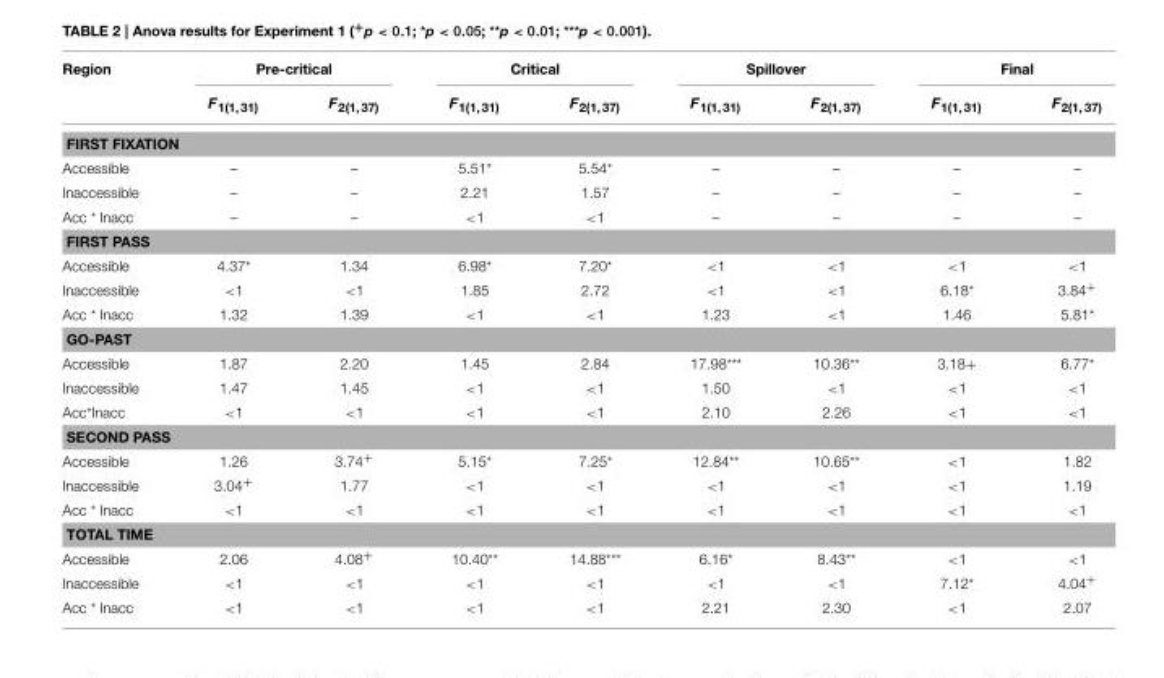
<table><thead><tr><td rowspan="2">Region</td><td colspan="2">Pre-critical</td><td colspan="2">Critical</td><td colspan="2">Spillover</td><td colspan="2">Final</td></tr><tr><td>F1(1, 31)</td><td>F<sub>2(1, 37)</sub></td><td>F1(1, 31)</td><td>F<sub>2(1, 37)</sub></td><td>F1(1, 31)</td><td>F<sub>2(1, 37)</sub></td><td>F1(1, 31)</td><td>F<sub>2(1, 37)</sub></td></tr></thead><tbody><tr><td colspan="9">FIRST FIXATION</td></tr><tr><td>Accessible</td><td>–</td><td>–</td><td>5.51*</td><td>5.54*</td><td>–</td><td>–</td><td>–</td><td>–</td></tr><tr><td>Inaccessible</td><td>–</td><td>–</td><td>2.21</td><td>1.57</td><td>–</td><td>–</td><td>–</td><td>–</td></tr><tr><td>Acc * Inacc</td><td>–</td><td>–</td><td>&lt;1</td><td>&lt;1</td><td>–</td><td>–</td><td>–</td><td>–</td></tr><tr><td colspan="9">FIRST PASS</td></tr><tr><td>Accessible</td><td>4.37*</td><td>1.34</td><td>6.98*</td><td>7.20*</td><td>&lt;1</td><td>&lt;1</td><td>&lt;1</td><td>&lt;1</td></tr><tr><td>Inaccessible</td><td>&lt;1</td><td>&lt;1</td><td>1.85</td><td>2.72</td><td>&lt;1</td><td>&lt;1</td><td>6.18*</td><td>3.84<sup>+</sup></td></tr><tr><td>Acc * Inacc</td><td>1.32</td><td>1.39</td><td>&lt;1</td><td>&lt;1</td><td>1.23</td><td>&lt;1</td><td>1.46</td><td>5.81*</td></tr><tr><td colspan="9">GO-PAST</td></tr><tr><td>Accessible</td><td>1.87</td><td>2.20</td><td>1.45</td><td>2.84</td><td>17.98***</td><td>10.36**</td><td>3.18<sup>+</sup></td><td>6.77*</td></tr><tr><td>Inaccessible</td><td>1.47</td><td>1.45</td><td>&lt;1</td><td>&lt;1</td><td>1.50</td><td>&lt;1</td><td>&lt;1</td><td>&lt;1</td></tr><tr><td>Acc*Inacc</td><td>&lt;1</td><td>&lt;1</td><td>&lt;1</td><td>&lt;1</td><td>2.10</td><td>2.26</td><td>&lt;1</td><td>&lt;1</td></tr><tr><td colspan="9">SECOND PASS</td></tr><tr><td>Accessible</td><td>1.26</td><td>3.74<sup>+</sup></td><td>5.15*</td><td>7.25*</td><td>12.84**</td><td>10.65**</td><td>&lt;1</td><td>1.82</td></tr><tr><td>Inaccessible</td><td>3.04<sup>+</sup></td><td>1.77</td><td>&lt;1</td><td>&lt;1</td><td>&lt;1</td><td>&lt;1</td><td>&lt;1</td><td>1.19</td></tr><tr><td>Acc * Inacc</td><td>&lt;1</td><td>&lt;1</td><td>&lt;1</td><td>&lt;1</td><td>&lt;1</td><td>&lt;1</td><td>&lt;1</td><td>&lt;1</td></tr><tr><td colspan="9">TOTAL TIME</td></tr><tr><td>Accessible</td><td>2.06</td><td>4.08<sup>+</sup></td><td>10.40**</td><td>14.88***</td><td>6.16*</td><td>8.43**</td><td>&lt;1</td><td>&lt;1</td></tr><tr><td>Inaccessible</td><td>&lt;1</td><td>&lt;1</td><td>&lt;1</td><td>&lt;1</td><td>&lt;1</td><td>&lt;1</td><td>7.12*</td><td>4.04<sup>+</sup></td></tr><tr><td>Acc * Inacc</td><td>&lt;1</td><td>&lt;1</td><td>&lt;1</td><td>&lt;1</td><td>2.21</td><td>2.30</td><td>&lt;1</td><td>2.07</td></tr></tbody></table>